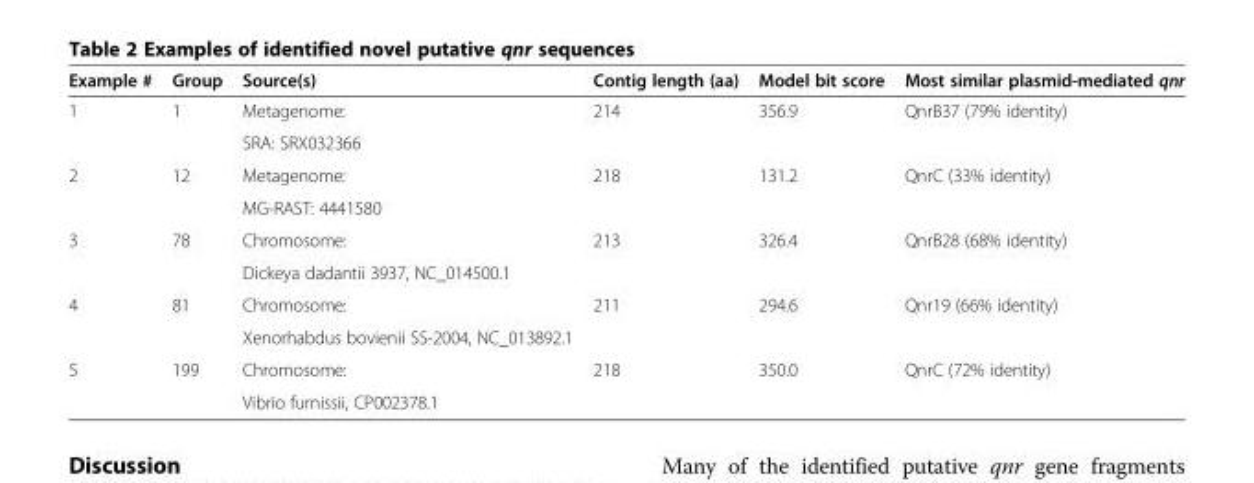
<table><thead><tr><td>Example #</td><td>Group</td><td>Source(s)</td><td>Contig length (aa)</td><td>Model bit score</td><td>Most similar plasmid-mediated qnr</td></tr></thead><tbody><tr><td rowspan="2">1</td><td>1</td><td>Metagenome:</td><td>214</td><td>356.9</td><td>QnrB37 (79% identity)</td></tr><tr><td></td><td>SRA: SRX032366</td><td></td><td></td><td></td></tr><tr><td rowspan="2">2</td><td>12</td><td>Metagenome:</td><td>218</td><td>131.2</td><td>QnrC (33% identity)</td></tr><tr><td></td><td>MG-RAST: 4441580</td><td></td><td></td><td></td></tr><tr><td rowspan="2">3</td><td>78</td><td>Chromosome:</td><td>213</td><td>326.4</td><td>QnrB28 (68% identity)</td></tr><tr><td></td><td>Dickeya dadantii 3937, NC_014500.1</td><td></td><td></td><td></td></tr><tr><td rowspan="2">4</td><td>81</td><td>Chromosome:</td><td>211</td><td>294.6</td><td>Qnr19 (66% identity)</td></tr><tr><td></td><td>Xenorhabdus bovienii SS-2004, NC_013892.1</td><td></td><td></td><td></td></tr><tr><td rowspan="2">5</td><td>199</td><td>Chromosome:</td><td>218</td><td>350.0</td><td>QnrC (72% identity)</td></tr><tr><td></td><td>Vibrio furnissii, CP002378.1</td><td></td><td></td><td></td></tr></tbody></table>